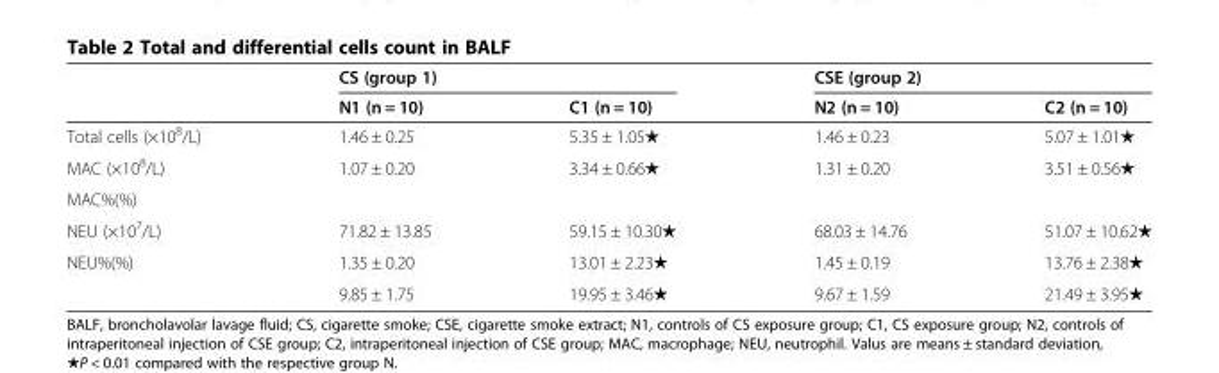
<table><thead><tr><td rowspan="2"></td><td colspan="2">CS (group 1)</td><td colspan="2">CSE (group 2)</td></tr><tr><td>N1 (n = 10)</td><td>C1 (n = 10)</td><td>N2 (n = 10)</td><td>C2 (n = 10)</td></tr></thead><tbody><tr><td>Total cells (×10<sup>8</sup>/L)</td><td>1.46 ± 0.25</td><td>5.35 ± 1.05★</td><td>1.46 ± 0.23</td><td>5.07 ± 1.01★</td></tr><tr><td>MAC (×10<sup>8</sup>/L)</td><td>1.07 ± 0.20</td><td>3.34 ± 0.66★</td><td>1.31 ± 0.20</td><td>3.51 ± 0.56★</td></tr><tr><td colspan="5">MAC%(%)</td></tr><tr><td>NEU (×10<sup>7</sup>/L)</td><td>71.82 ± 13.85</td><td>59.15 ± 10.30★</td><td>68.03 ± 14.76</td><td>51.07 ± 10.62★</td></tr><tr><td rowspan="2">NEU%(%)</td><td>1.35 ± 0.20</td><td>13.01 ± 2.23★</td><td>1.45 ± 0.19</td><td>13.76 ± 2.38★</td></tr><tr><td>9.85 ± 1.75</td><td>19.95 ± 3.46★</td><td>9.67 ± 1.59</td><td>21.49 ± 3.95★</td></tr></tbody></table>